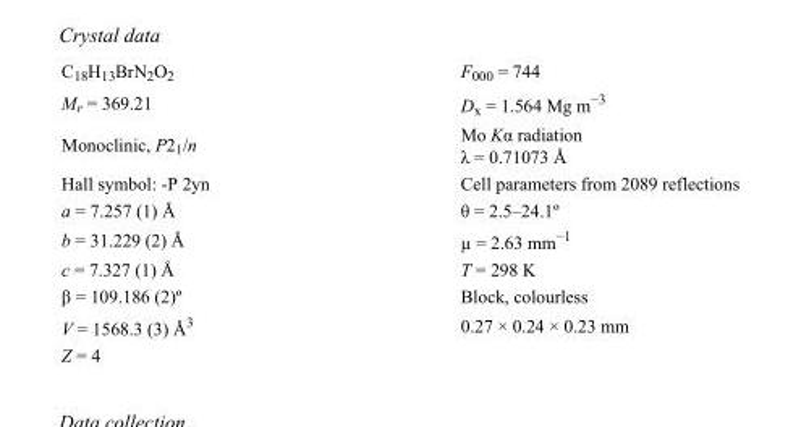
<table><tbody><tr><td>C<sub>18</sub>H<sub>13</sub>BrN<sub>2</sub>O<sub>2</sub></td><td>F000 = 744</td></tr><tr><td>M<sub>r</sub> = 369.21</td><td>D<sub>x</sub> = 1.564 Mg m<sup>−3</sup></td></tr><tr><td>Monoclinic, P2<sub>1</sub>/n</td><td>Mo Kα radiation λ = 0.71073 Å</td></tr><tr><td>Hall symbol: -P 2yn</td><td>Cell parameters from 2089 reflections</td></tr><tr><td>a = 7.257 (1) Å</td><td>θ = 2.5–24.1º</td></tr><tr><td>b = 31.229 (2) Å</td><td>µ = 2.63 mm<sup>−1</sup></td></tr><tr><td>c = 7.327 (1) Å</td><td>T = 298 K</td></tr><tr><td>β = 109.186 (2)º</td><td>Block, colourless</td></tr><tr><td>V = 1568.3 (3) Å<sup>3</sup></td><td>0.27 × 0.24 × 0.23 mm</td></tr><tr><td>Z = 4</td><td></td></tr></tbody></table>